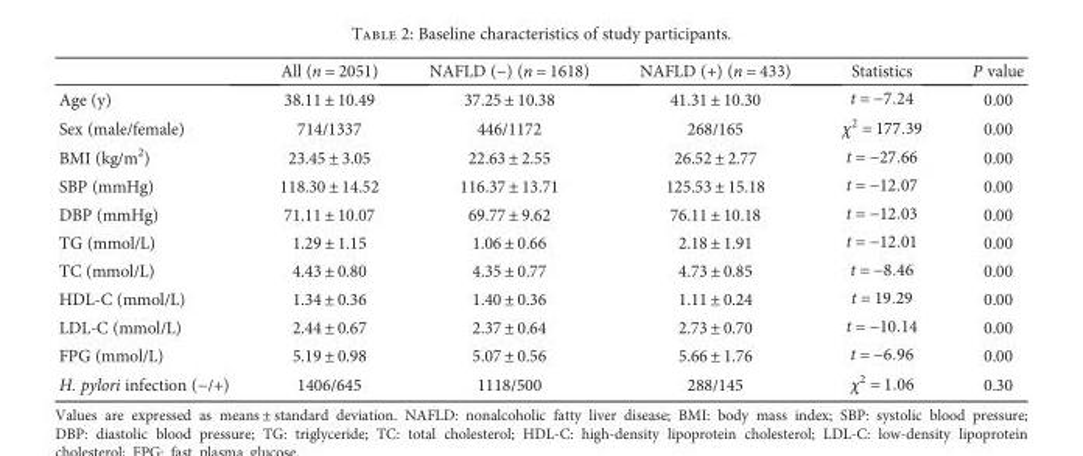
<table><thead><tr><td></td><td>All (n = 2051)</td><td>NAFLD (−) (n = 1618)</td><td>NAFLD (+) (n = 433)</td><td>Statistics</td><td>P value</td></tr></thead><tbody><tr><td>Age (y)</td><td>38.11 ± 10.49</td><td>37.25 ± 10.38</td><td>41.31 ± 10.30</td><td>t = −7 24</td><td>0.00</td></tr><tr><td>Sex (male/female)</td><td>714/1337</td><td>446/1172</td><td>268/165</td><td>χ2 = 177 39</td><td>0.00</td></tr><tr><td>BMI (kg/m<sup>2</sup>)</td><td>23.45 ± 3.05</td><td>22.63 ± 2.55</td><td>26.52 ± 2.77</td><td>t = −27 66</td><td>0.00</td></tr><tr><td>SBP (mmHg)</td><td>118.30 ± 14.52</td><td>116.37 ± 13.71</td><td>125.53 ± 15.18</td><td>t = −12 07</td><td>0.00</td></tr><tr><td>DBP (mmHg)</td><td>71.11 ± 10.07</td><td>69.77 ± 9.62</td><td>76.11 ± 10.18</td><td>t = −12 03</td><td>0.00</td></tr><tr><td>TG (mmol/L)</td><td>1.29 ± 1.15</td><td>1.06 ± 0.66</td><td>2.18 ± 1.91</td><td>t = −12 01</td><td>0.00</td></tr><tr><td>TC (mmol/L)</td><td>4.43 ± 0.80</td><td>4.35 ± 0.77</td><td>4.73 ± 0.85</td><td>t = −8 46</td><td>0.00</td></tr><tr><td>HDL-C (mmol/L)</td><td>1.34 ± 0.36</td><td>1.40 ± 0.36</td><td>1.11 ± 0.24</td><td>t = 19 29</td><td>0.00</td></tr><tr><td>LDL-C (mmol/L)</td><td>2.44 ± 0.67</td><td>2.37 ± 0.64</td><td>2.73 ± 0.70</td><td>t = −10 14</td><td>0.00</td></tr><tr><td>FPG (mmol/L)</td><td>5.19 ± 0.98</td><td>5.07 ± 0.56</td><td>5.66 ± 1.76</td><td>t = −6 96</td><td>0.00</td></tr><tr><td>H. pylori infection (−/+)</td><td>1406/645</td><td>1118/500</td><td>288/145</td><td>χ2 = 1 06</td><td>0.30</td></tr></tbody></table>